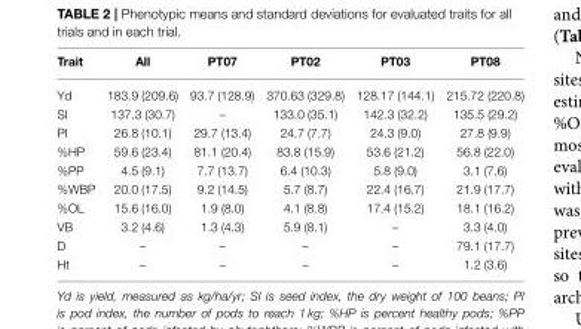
<table><thead><tr><td>Trait</td><td>All</td><td>PT07</td><td>PT02</td><td>PT03</td><td>PT08</td></tr></thead><tbody><tr><td>Yd</td><td>183.9 (209.6)</td><td>93.7 (128.9)</td><td>370.63 (329.8)</td><td>128.17 (144.1)</td><td>215.72 (220.8)</td></tr><tr><td>SI</td><td>137.3 (30.7)</td><td>–</td><td>133.0 (35.1)</td><td>142.3 (32.2)</td><td>135.5 (29.2)</td></tr><tr><td>PI</td><td>26.8 (10.1)</td><td>29.7 (13.4)</td><td>24.7 (7.7)</td><td>24.3 (9.0)</td><td>27.8 (9.9)</td></tr><tr><td>%HP</td><td>59.6 (23.4)</td><td>81.1 (20.4)</td><td>83.8 (15.9)</td><td>53.6 (21.2)</td><td>56.8 (22.0)</td></tr><tr><td>%PP</td><td>4.5 (9.1)</td><td>7.7 (13.7)</td><td>6.4 (10.3)</td><td>5.8 (9.0)</td><td>3.1 (7.6)</td></tr><tr><td>%WBP</td><td>20.0 (17.5)</td><td>9.2 (14.5)</td><td>5.7 (8.7)</td><td>22.4 (16.7)</td><td>21.9 (17.7)</td></tr><tr><td>%OL</td><td>15.6 (16.0)</td><td>1.9 (8.0)</td><td>4.1 (8.8)</td><td>17.4 (15.2)</td><td>18.1 (16.2)</td></tr><tr><td>VB</td><td>3.2 (4.6)</td><td>1.3 (4.3)</td><td>5.9 (8.1)</td><td>–</td><td>3.3 (4.0)</td></tr><tr><td>D</td><td>–</td><td>–</td><td>–</td><td>–</td><td>79.1 (17.7)</td></tr><tr><td>Ht</td><td>–</td><td>–</td><td>–</td><td>–</td><td>1.2 (3.6)</td></tr></tbody></table>